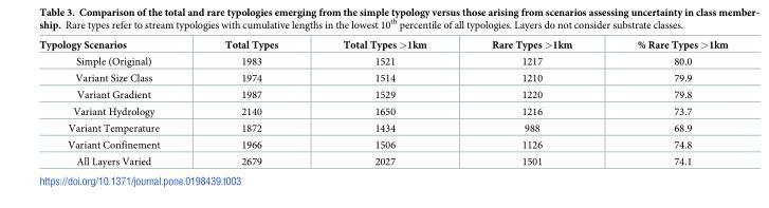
<table><thead><tr><td>Typology Scenarios</td><td>Total Types</td><td>Total Types &gt;1km</td><td>Rare Types &gt;1km</td><td>% Rare Types &gt;1km</td></tr></thead><tbody><tr><td>Simple (Original)</td><td>1983</td><td>1521</td><td>1217</td><td>80.0</td></tr><tr><td>Variant Size Class</td><td>1974</td><td>1514</td><td>1210</td><td>79.9</td></tr><tr><td>Variant Gradient</td><td>1987</td><td>1529</td><td>1220</td><td>79.8</td></tr><tr><td>Variant Hydrology</td><td>2140</td><td>1650</td><td>1216</td><td>73.7</td></tr><tr><td>Variant Temperature</td><td>1872</td><td>1434</td><td>988</td><td>68.9</td></tr><tr><td>Variant Confinement</td><td>1966</td><td>1506</td><td>1126</td><td>74.8</td></tr><tr><td>All Layers Varied</td><td>2679</td><td>2027</td><td>1501</td><td>74.1</td></tr></tbody></table>